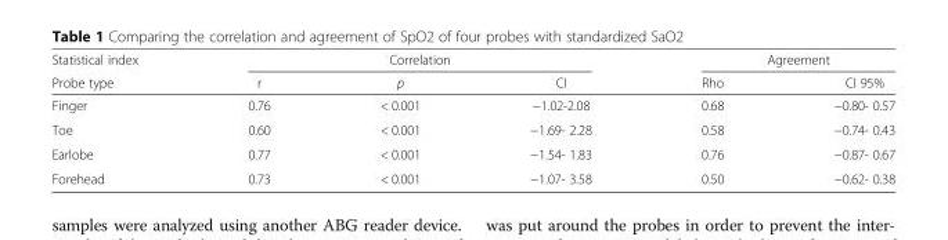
<table><thead><tr><td rowspan="2">Statistical index Probe type</td><td colspan="3">Correlation</td><td colspan="2">Agreement</td></tr><tr><td>r</td><td>p</td><td>CI</td><td>Rho</td><td>CI 95%</td></tr></thead><tbody><tr><td>Finger</td><td>0.76</td><td>&lt; 0.001</td><td>−1.02-2.08</td><td>0.68</td><td>−0.80- 0.57</td></tr><tr><td>Toe</td><td>0.60</td><td>&lt; 0.001</td><td>−1.69- 2.28</td><td>0.58</td><td>−0.74- 0.43</td></tr><tr><td>Earlobe</td><td>0.77</td><td>&lt; 0.001</td><td>−1.54- 1.83</td><td>0.76</td><td>−0.87- 0.67</td></tr><tr><td>Forehead</td><td>0.73</td><td>&lt; 0.001</td><td>−1.07- 3.58</td><td>0.50</td><td>−0.62- 0.38</td></tr></tbody></table>